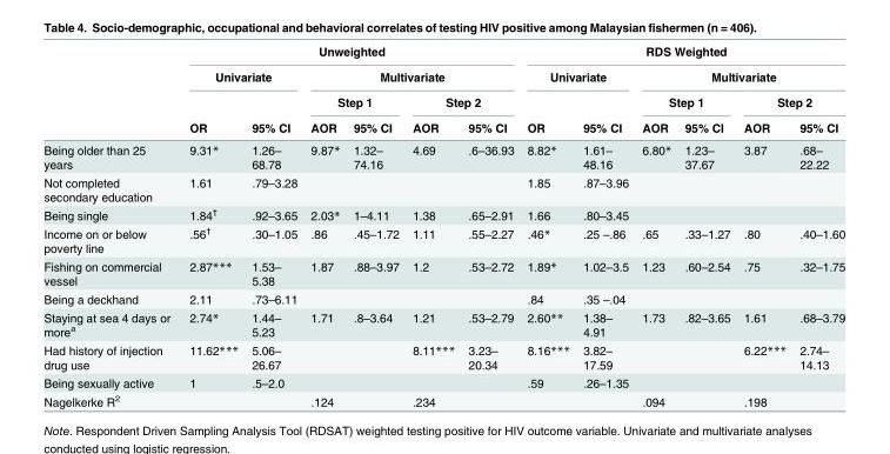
<table><thead><tr><td rowspan="4"></td><td colspan="6">Unweighted</td><td colspan="6">RDS Weighted</td></tr><tr><td colspan="2">Univariate</td><td colspan="4">Multivariate</td><td colspan="2">Univariate</td><td colspan="4">Multivariate</td></tr><tr><td rowspan="2">OR</td><td rowspan="2">95% CI</td><td colspan="2">Step 1</td><td colspan="2">Step 2</td><td rowspan="2">OR</td><td rowspan="2">95% CI</td><td colspan="2">Step 1</td><td colspan="2">Step 2</td></tr><tr><td>AOR</td><td>95% CI</td><td>AOR</td><td>95% CI</td><td>AOR</td><td>95% CI</td><td>AOR</td><td>95% CI</td></tr></thead><tbody><tr><td>Being older than 25 years</td><td>9.31*</td><td>1.26– 68.78</td><td>9.87*</td><td>1.32– 74.16</td><td>4.69</td><td>.6–36.93</td><td>8.82*</td><td>1.61– 48.16</td><td>6.80*</td><td>1.23– 37.67</td><td>3.87</td><td>.68– 22.22</td></tr><tr><td>Not completed secondary education</td><td>1.61</td><td>.79–3.28</td><td></td><td></td><td></td><td></td><td>1.85</td><td>.87–3.96</td><td></td><td></td><td></td><td></td></tr><tr><td>Being single</td><td>1.84<sup>†</sup></td><td>.92–3.65</td><td>2.03*</td><td>1–4.11</td><td>1.38</td><td>.65–2.91</td><td>1.66</td><td>.80–3.45</td><td></td><td></td><td></td><td></td></tr><tr><td>Income on or below poverty line</td><td>.56<sup>†</sup></td><td>.30–1.05</td><td>.86</td><td>.45–1.72</td><td>1.11</td><td>.55–2.27</td><td>.46*</td><td>.25 –.86</td><td>.65</td><td>.33–1.27</td><td>.80</td><td>.40–1.60</td></tr><tr><td>Fishing on commercial vessel</td><td>2.87***</td><td>1.53– 5.38</td><td>1.87</td><td>.88–3.97</td><td>1.2</td><td>.53–2.72</td><td>1.89*</td><td>1.02–3.5</td><td>1.23</td><td>.60–2.54</td><td>.75</td><td>.32–1.75</td></tr><tr><td>Being a deckhand</td><td>2.11</td><td>.73–6.11</td><td></td><td></td><td></td><td></td><td>.84</td><td>.35 –.04</td><td></td><td></td><td></td><td></td></tr><tr><td>Staying at sea 4 days or more<sup>a</sup></td><td>2.74*</td><td>1.44– 5.23</td><td>1.71</td><td>.8–3.64</td><td>1.21</td><td>.53–2.79</td><td>2.60**</td><td>1.38– 4.91</td><td>1.73</td><td>.82–3.65</td><td>1.61</td><td>.68–3.79</td></tr><tr><td>Had history of injection drug use</td><td>11.62***</td><td>5.06– 26.67</td><td></td><td></td><td>8.11***</td><td>3.23– 20.34</td><td>8.16***</td><td>3.82– 17.59</td><td></td><td></td><td>6.22***</td><td>2.74– 14.13</td></tr><tr><td>Being sexually active</td><td>1</td><td>.5–2.0</td><td></td><td></td><td></td><td></td><td>.59</td><td>.26–1.35</td><td></td><td></td><td></td><td></td></tr><tr><td>Nagelkerke R<sup>2</sup></td><td></td><td></td><td colspan="2">.124</td><td colspan="2">.234</td><td></td><td></td><td colspan="2">.094</td><td colspan="2">.198</td></tr></tbody></table>